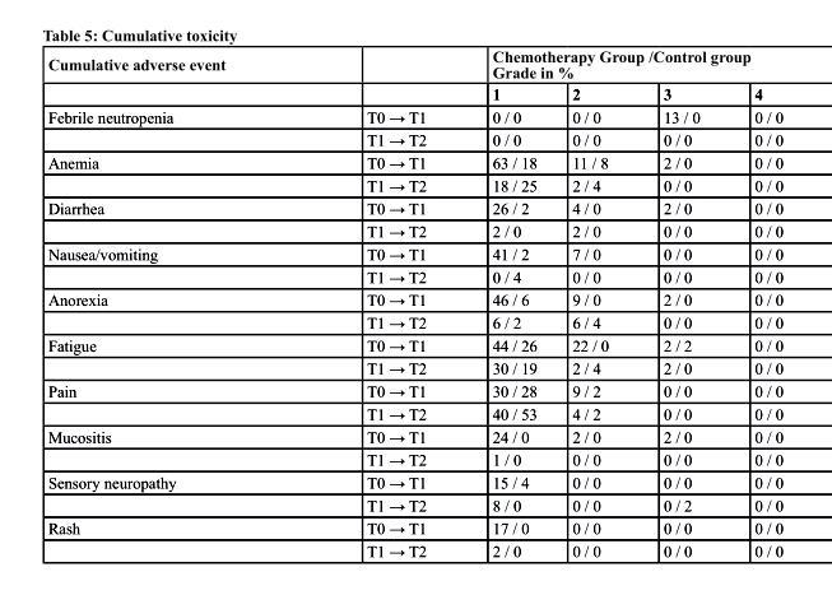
<table><thead><tr><td rowspan="2">Cumulative adverse event</td><td rowspan="2"></td><td colspan="4">chemotherapy Group /control group Grade in %</td></tr><tr><td>1</td><td>2</td><td>3</td><td>4</td></tr></thead><tbody><tr><td rowspan="2">Febrile neutropenia</td><td>T0 → T1</td><td>0 / 0</td><td>0 / 0</td><td>13 / 0</td><td>0 / 0</td></tr><tr><td>T1 → T2</td><td>0 / 0</td><td>0 / 0</td><td>0 / 0</td><td>0 / 0</td></tr><tr><td rowspan="2">Anemia</td><td>T0 → T1</td><td>63 / 18</td><td>11 / 8</td><td>2 / 0</td><td>0 / 0</td></tr><tr><td>T1 → T2</td><td>18 / 25</td><td>2 / 4</td><td>0 / 0</td><td>0 / 0</td></tr><tr><td rowspan="2">Diarrhea</td><td>T0 → T1</td><td>26 / 2</td><td>4 / 0</td><td>2 / 0</td><td>0 / 0</td></tr><tr><td>T1 → T2</td><td>2 / 0</td><td>2 / 0</td><td>0 / 0</td><td>0 / 0</td></tr><tr><td rowspan="2">Nausea/vomiting</td><td>T0 → T1</td><td>41 / 2</td><td>7 / 0</td><td>0 / 0</td><td>0 / 0</td></tr><tr><td>T1 → T2</td><td>0 / 4</td><td>0 / 0</td><td>0 / 0</td><td>0 / 0</td></tr><tr><td rowspan="2">Anorexia</td><td>T0 → T1</td><td>46 / 6</td><td>9 / 0</td><td>2 / 0</td><td>0 / 0</td></tr><tr><td>T1 → T2</td><td>6 / 2</td><td>6 / 4</td><td>0 / 0</td><td>0 / 0</td></tr><tr><td rowspan="2">Fatigue</td><td>T0 → T1</td><td>44 / 26</td><td>22 / 0</td><td>2 / 2</td><td>0 / 0</td></tr><tr><td>T1 → T2</td><td>30 / 19</td><td>2 / 4</td><td>2 / 0</td><td>0 / 0</td></tr><tr><td rowspan="2">Pain</td><td>T0 → T1</td><td>30 / 28</td><td>9 / 2</td><td>0 / 0</td><td>0 / 0</td></tr><tr><td>T1 → T2</td><td>40 / 53</td><td>4 / 2</td><td>0 / 0</td><td>0 / 0</td></tr><tr><td rowspan="2">Mucositis</td><td>T0 → T1</td><td>24 / 0</td><td>2 / 0</td><td>2 / 0</td><td>0 / 0</td></tr><tr><td>T1 → T2</td><td>1 / 0</td><td>0 / 0</td><td>0 / 0</td><td>0 / 0</td></tr><tr><td rowspan="2">Sensory neuropathy</td><td>T0 → T1</td><td>15 / 4</td><td>0 / 0</td><td>0 / 0</td><td>0 / 0</td></tr><tr><td>T1 → T2</td><td>8 / 0</td><td>0 / 0</td><td>0 / 2</td><td>0 / 0</td></tr><tr><td rowspan="2">Rash</td><td>T0 → T1</td><td>17 / 0</td><td>0 / 0</td><td>0 / 0</td><td>0 / 0</td></tr><tr><td>T1 → T2</td><td>2 / 0</td><td>0 / 0</td><td>0 / 0</td><td>0 / 0</td></tr></tbody></table>